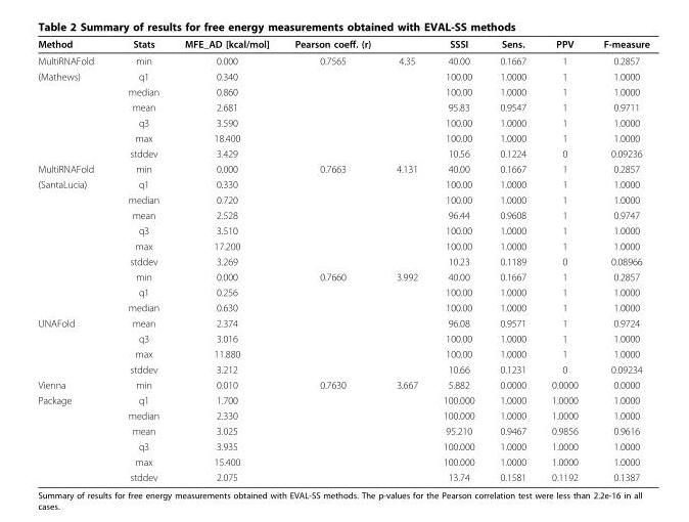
<table><thead><tr><td>Method</td><td>Stats</td><td>MFE_AD [kcal/mol]</td><td>Pearson coeff. (r)</td><td></td><td>SSSI</td><td>Sens.</td><td>PPV</td><td>F-measure</td></tr></thead><tbody><tr><td>MultiRNAFold</td><td>min</td><td>0.000</td><td>0.7565</td><td>4.35</td><td>40.00</td><td>0.1667</td><td>1</td><td>0.2857</td></tr><tr><td rowspan="6">(Mathews)</td><td>q1</td><td>0.340</td><td></td><td></td><td>100.00</td><td>1.0000</td><td>1</td><td>1.0000</td></tr><tr><td>median</td><td>0.860</td><td></td><td></td><td>100.00</td><td>1.0000</td><td>1</td><td>1.0000</td></tr><tr><td>mean</td><td>2.681</td><td></td><td></td><td>95.83</td><td>0.9547</td><td>1</td><td>0.9711</td></tr><tr><td>q3</td><td>3.590</td><td></td><td></td><td>100.00</td><td>1.0000</td><td>1</td><td>1.0000</td></tr><tr><td>max</td><td>18.400</td><td></td><td></td><td>100.00</td><td>1.0000</td><td>1</td><td>1.0000</td></tr><tr><td>stddev</td><td>3.429</td><td></td><td></td><td>10.56</td><td>0.1224</td><td>0</td><td>0.09236</td></tr><tr><td>MultiRNAFold</td><td>min</td><td>0.000</td><td>0.7663</td><td>4.131</td><td>40.00</td><td>0.1667</td><td>1</td><td>0.2857</td></tr><tr><td rowspan="9">(SantaLucia)</td><td>q1</td><td>0.330</td><td></td><td></td><td>100.00</td><td>1.0000</td><td>1</td><td>1.0000</td></tr><tr><td>median</td><td>0.720</td><td></td><td></td><td>100.00</td><td>1.0000</td><td>1</td><td>1.0000</td></tr><tr><td>mean</td><td>2.528</td><td></td><td></td><td>96.44</td><td>0.9608</td><td>1</td><td>0.9747</td></tr><tr><td>q3</td><td>3.510</td><td></td><td></td><td>100.00</td><td>1.0000</td><td>1</td><td>1.0000</td></tr><tr><td>max</td><td>17.200</td><td></td><td></td><td>100.00</td><td>1.0000</td><td>1</td><td>1.0000</td></tr><tr><td>stddev</td><td>3.269</td><td></td><td></td><td>10.23</td><td>0.1189</td><td>0</td><td>0.08966</td></tr><tr><td>min</td><td>0.000</td><td>0.7660</td><td>3.992</td><td>40.00</td><td>0.1667</td><td>1</td><td>0.2857</td></tr><tr><td>q1</td><td>0.256</td><td></td><td></td><td>100.00</td><td>1.0000</td><td>1</td><td>1.0000</td></tr><tr><td>median</td><td>0.630</td><td></td><td></td><td>100.00</td><td>1.0000</td><td>1</td><td>1.0000</td></tr><tr><td rowspan="4">UNAFold</td><td>mean</td><td>2.374</td><td></td><td></td><td>96.08</td><td>0.9571</td><td>1</td><td>0.9724</td></tr><tr><td>q3</td><td>3.016</td><td></td><td></td><td>100.00</td><td>1.0000</td><td>1</td><td>1.0000</td></tr><tr><td>max</td><td>11.880</td><td></td><td></td><td>100.00</td><td>1.0000</td><td>1</td><td>1.0000</td></tr><tr><td>stddev</td><td>3.212</td><td></td><td></td><td>10.66</td><td>0.1231</td><td>0</td><td>0.09234</td></tr><tr><td>Vienna</td><td>min</td><td>0.010</td><td>0.7630</td><td>3.667</td><td>5.882</td><td>0.0000</td><td>0.0000</td><td>0.0000</td></tr><tr><td rowspan="6">Package</td><td>q1</td><td>1.700</td><td></td><td></td><td>100.000</td><td>1.0000</td><td>1.0000</td><td>1.0000</td></tr><tr><td>median</td><td>2.330</td><td></td><td></td><td>100.000</td><td>1.0000</td><td>1.0000</td><td>1.0000</td></tr><tr><td>mean</td><td>3.025</td><td></td><td></td><td>95.210</td><td>0.9467</td><td>0.9856</td><td>0.9616</td></tr><tr><td>q3</td><td>3.935</td><td></td><td></td><td>100.000</td><td>1.0000</td><td>1.0000</td><td>1.0000</td></tr><tr><td>max</td><td>15.400</td><td></td><td></td><td>100.000</td><td>1.0000</td><td>1.0000</td><td>1.0000</td></tr><tr><td>stddev</td><td>2.075</td><td></td><td></td><td>13.74</td><td>0.1581</td><td>0.1192</td><td>0.1387</td></tr></tbody></table>